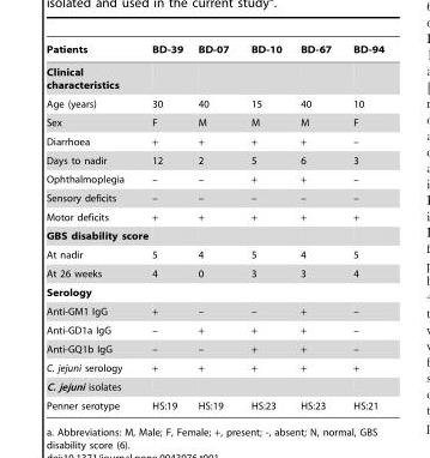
<table><thead><tr><td>Patients</td><td>BD-39</td><td>BD-07</td><td>BD-10</td><td>BD-67</td><td>BD-94</td></tr></thead><tbody><tr><td colspan="6">Clinical characteristics</td></tr><tr><td>Age (years)</td><td>30</td><td>40</td><td>15</td><td>40</td><td>10</td></tr><tr><td>Sex</td><td>F</td><td>M</td><td>M</td><td>M</td><td>F</td></tr><tr><td>Diarrhoea</td><td>+</td><td>+</td><td>+</td><td>+</td><td>–</td></tr><tr><td>Days to nadir</td><td>12</td><td>2</td><td>5</td><td>6</td><td>3</td></tr><tr><td>Ophthalmoplegia</td><td>–</td><td>–</td><td>+</td><td>+</td><td>–</td></tr><tr><td>Sensory deficits</td><td>–</td><td>–</td><td>–</td><td>–</td><td>–</td></tr><tr><td>Motor deficits</td><td>+</td><td>+</td><td>+</td><td>+</td><td>+</td></tr><tr><td colspan="6">GBS disability score</td></tr><tr><td>At nadir</td><td>5</td><td>4</td><td>5</td><td>4</td><td>5</td></tr><tr><td>At 26 weeks</td><td>4</td><td>0</td><td>3</td><td>3</td><td>4</td></tr><tr><td colspan="6">Serology</td></tr><tr><td>Anti-GM1 IgG</td><td>+</td><td>–</td><td>–</td><td>+</td><td>–</td></tr><tr><td>Anti-GD1a IgG</td><td>–</td><td>+</td><td>+</td><td>+</td><td>–</td></tr><tr><td>Anti-GQ1b IgG</td><td>–</td><td>–</td><td>+</td><td>+</td><td>–</td></tr><tr><td>C. jejuni serology</td><td>+</td><td>+</td><td>+</td><td>+</td><td>+</td></tr><tr><td colspan="6">C. jejuni isolates</td></tr><tr><td>Penner serotype</td><td>HS:19</td><td>HS:19</td><td>HS:23</td><td>HS:23</td><td>HS:21</td></tr></tbody></table>